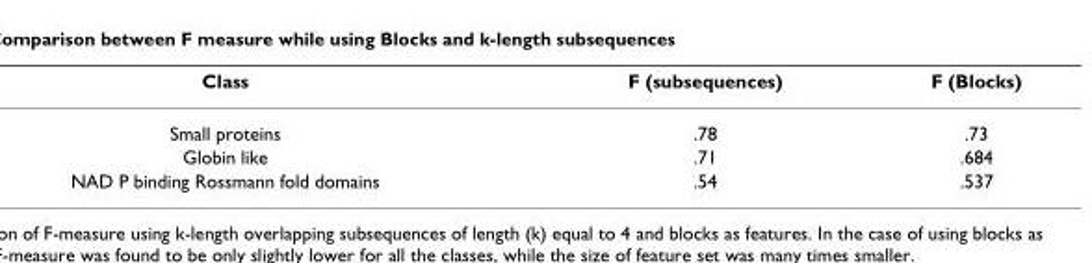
<table><thead><tr><td>Class</td><td>F (subsequences)</td><td>F (Blocks)</td></tr></thead><tbody><tr><td>Small proteins</td><td>.78</td><td>.73</td></tr><tr><td>Globin like</td><td>.71</td><td>.684</td></tr><tr><td>NAD P binding Rossmann fold domains</td><td>.54</td><td>.537</td></tr></tbody></table>